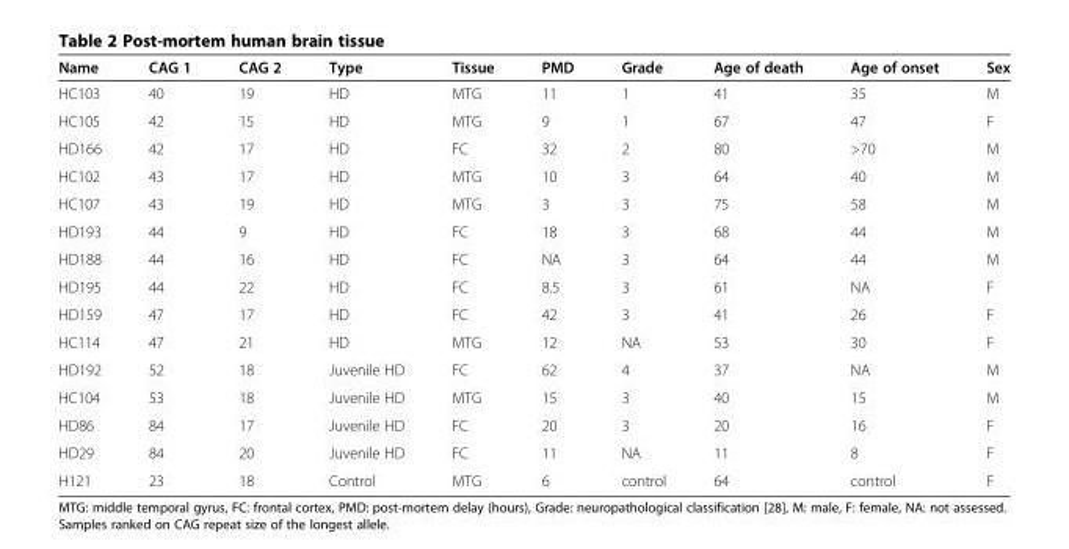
<table><thead><tr><td>Name</td><td>CAG 1</td><td>CAG 2</td><td>Type</td><td>Tissue</td><td>PMD</td><td>Grade</td><td>Age of death</td><td>Age of onset</td><td>Sex</td></tr></thead><tbody><tr><td>HC103</td><td>40</td><td>19</td><td>HD</td><td>MTG</td><td>11</td><td>1</td><td>41</td><td>35</td><td>M</td></tr><tr><td>HC105</td><td>42</td><td>15</td><td>HD</td><td>MTG</td><td>9</td><td>1</td><td>67</td><td>47</td><td>F</td></tr><tr><td>HD166</td><td>42</td><td>17</td><td>HD</td><td>FC</td><td>32</td><td>2</td><td>80</td><td>&gt;70</td><td>M</td></tr><tr><td>HC102</td><td>43</td><td>17</td><td>HD</td><td>MTG</td><td>10</td><td>3</td><td>64</td><td>40</td><td>M</td></tr><tr><td>HC107</td><td>43</td><td>19</td><td>HD</td><td>MTG</td><td>3</td><td>3</td><td>75</td><td>58</td><td>M</td></tr><tr><td>HD193</td><td>44</td><td>9</td><td>HD</td><td>FC</td><td>18</td><td>3</td><td>68</td><td>44</td><td>M</td></tr><tr><td>HD188</td><td>44</td><td>16</td><td>HD</td><td>FC</td><td>NA</td><td>3</td><td>64</td><td>44</td><td>M</td></tr><tr><td>HD195</td><td>44</td><td>22</td><td>HD</td><td>FC</td><td>8.5</td><td>3</td><td>61</td><td>NA</td><td>F</td></tr><tr><td>HD159</td><td>47</td><td>17</td><td>HD</td><td>FC</td><td>42</td><td>3</td><td>41</td><td>26</td><td>F</td></tr><tr><td>HC114</td><td>47</td><td>21</td><td>HD</td><td>MTG</td><td>12</td><td>NA</td><td>53</td><td>30</td><td>F</td></tr><tr><td>HD192</td><td>52</td><td>18</td><td>Juvenile HD</td><td>FC</td><td>62</td><td>4</td><td>37</td><td>NA</td><td>M</td></tr><tr><td>HC104</td><td>53</td><td>18</td><td>Juvenile HD</td><td>MTG</td><td>15</td><td>3</td><td>40</td><td>15</td><td>M</td></tr><tr><td>HD86</td><td>84</td><td>17</td><td>Juvenile HD</td><td>FC</td><td>20</td><td>3</td><td>20</td><td>16</td><td>F</td></tr><tr><td>HD29</td><td>84</td><td>20</td><td>Juvenile HD</td><td>FC</td><td>11</td><td>NA</td><td>11</td><td>8</td><td>F</td></tr><tr><td>H121</td><td>23</td><td>18</td><td>Control</td><td>MTG</td><td>6</td><td>control</td><td>64</td><td>control</td><td>F</td></tr></tbody></table>